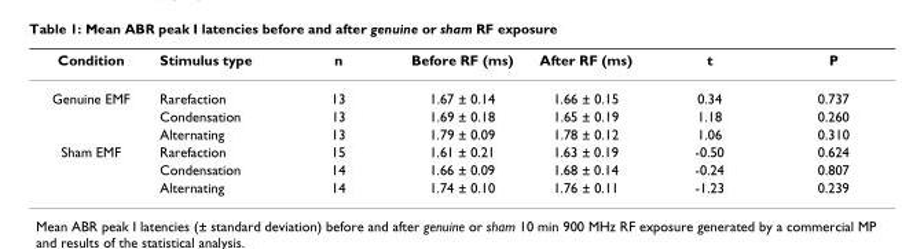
<table><thead><tr><td>Condition</td><td>Stimulus type</td><td>n</td><td>Before RF (ms)</td><td>After RF (ms)</td><td>t</td><td>P</td></tr></thead><tbody><tr><td rowspan="3">Genuine EMF</td><td>Rarefaction</td><td>13</td><td>1.67 ± 0.14</td><td>1.66 ± 0.15</td><td>0.34</td><td>0.737</td></tr><tr><td>Condensation</td><td>13</td><td>1.69 ± 0.18</td><td>1.65 ± 0.19</td><td>1.18</td><td>0.260</td></tr><tr><td>Alternating</td><td>13</td><td>1.79 ± 0.09</td><td>1.78 ± 0.12</td><td>1.06</td><td>0.310</td></tr><tr><td rowspan="3">Sham EMF</td><td>Rarefaction</td><td>15</td><td>1.61 ± 0.21</td><td>1.63 ± 0.19</td><td>-0.50</td><td>0.624</td></tr><tr><td>Condensation</td><td>14</td><td>1.66 ± 0.09</td><td>1.68 ± 0.14</td><td>-0.24</td><td>0.807</td></tr><tr><td>Alternating</td><td>14</td><td>1.74 ± 0.10</td><td>1.76 ± 0.11</td><td>-1.23</td><td>0.239</td></tr></tbody></table>